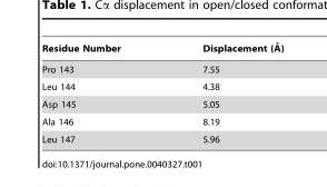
<table><thead><tr><td>Residue Number</td><td>Displacement (A˚ )</td></tr></thead><tbody><tr><td>Pro 143</td><td>7.55</td></tr><tr><td>Leu 144</td><td>4.38</td></tr><tr><td>Asp 145</td><td>5.05</td></tr><tr><td>Ala 146</td><td>8.19</td></tr><tr><td>Leu 147</td><td>5.96</td></tr></tbody></table>